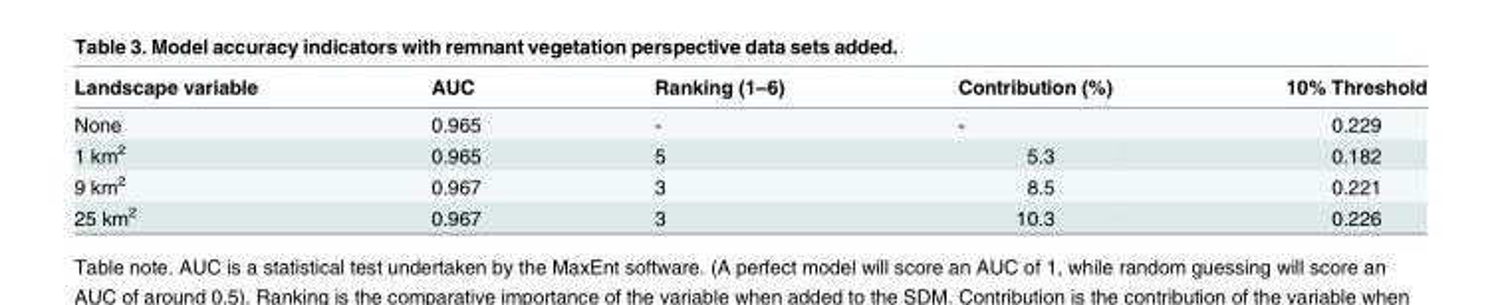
<table><thead><tr><td>Landscape variable</td><td>AUC</td><td>Ranking (1–6)</td><td>Contribution (%)</td><td>10% Threshold</td></tr></thead><tbody><tr><td>None</td><td>0.965</td><td>-</td><td>-</td><td>0.229</td></tr><tr><td>1 km<sup>2</sup></td><td>0.965</td><td>5</td><td>5.3</td><td>0.182</td></tr><tr><td>9 km<sup>2</sup></td><td>0.967</td><td>3</td><td>8.5</td><td>0.221</td></tr><tr><td>25 km<sup>2</sup></td><td>0.967</td><td>3</td><td>10.3</td><td>0.226</td></tr></tbody></table>